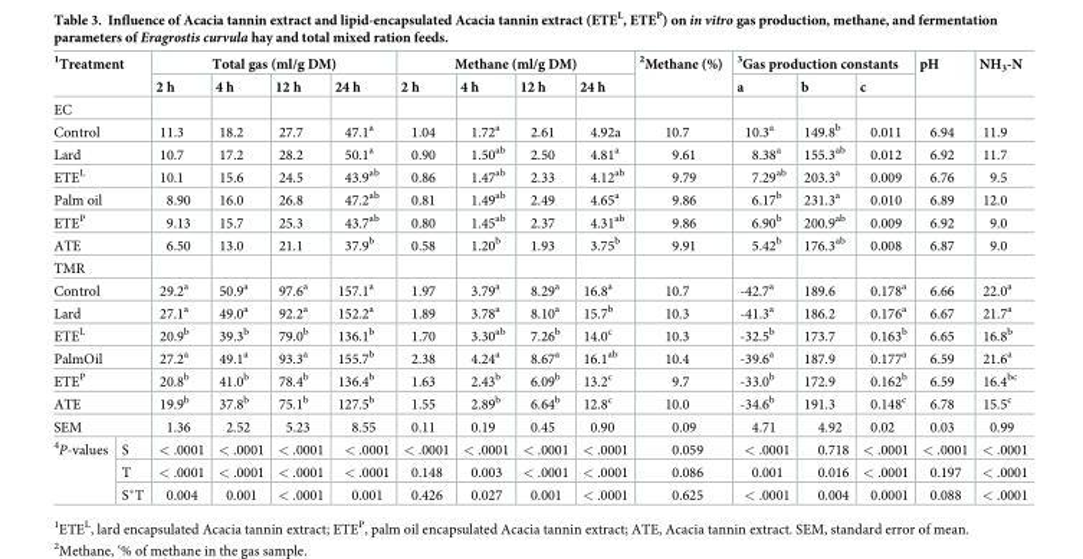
<table><thead><tr><td rowspan="2" colspan="2"><sup>1</sup>Treatment</td><td colspan="4">Total gas (ml/g DM)</td><td colspan="4">Methane (ml/g DM)</td><td rowspan="2"><sup>2</sup>Methane (%)</td><td colspan="3"><sup>3</sup>Gas production constants</td><td rowspan="2">pH</td><td rowspan="2">NH<sub>3</sub>-N</td></tr><tr><td>2 h</td><td>4 h</td><td>12 h</td><td>24 h</td><td>2 h</td><td>4 h</td><td>12 h</td><td>24 h</td><td>a</td><td>b</td><td>c</td></tr></thead><tbody><tr><td colspan="16">EC</td></tr><tr><td colspan="2">Control</td><td>11.3</td><td>18.2</td><td>27.7</td><td>47.1<sup>a</sup></td><td>1.04</td><td>1.72<sup>a</sup></td><td>2.61</td><td>4.92a</td><td>10.7</td><td>10.3<sup>a</sup></td><td>149.8<sup>b</sup></td><td>0.011</td><td>6.94</td><td>11.9</td></tr><tr><td colspan="2">Lard</td><td>10.7</td><td>17.2</td><td>28.2</td><td>50.1<sup>a</sup></td><td>0.90</td><td>1.50<sup>ab</sup></td><td>2.50</td><td>4.81<sup>a</sup></td><td>9.61</td><td>8.38<sup>a</sup></td><td>155.3<sup>ab</sup></td><td>0.012</td><td>6.92</td><td>11.7</td></tr><tr><td colspan="2">ETE<sup>L</sup></td><td>10.1</td><td>15.6</td><td>24.5</td><td>43.9<sup>ab</sup></td><td>0.86</td><td>1.47<sup>ab</sup></td><td>2.33</td><td>4.12<sup>ab</sup></td><td>9.79</td><td>7.29<sup>ab</sup></td><td>203.3<sup>a</sup></td><td>0.009</td><td>6.76</td><td>9.5</td></tr><tr><td colspan="2">Palm oil</td><td>8.90</td><td>16.0</td><td>26.8</td><td>47.2<sup>ab</sup></td><td>0.81</td><td>1.49<sup>ab</sup></td><td>2.49</td><td>4.65<sup>a</sup></td><td>9.86</td><td>6.17<sup>b</sup></td><td>231.3<sup>a</sup></td><td>0.010</td><td>6.89</td><td>12.0</td></tr><tr><td colspan="2">ETE<sup>P</sup></td><td>9.13</td><td>15.7</td><td>25.3</td><td>43.7<sup>ab</sup></td><td>0.80</td><td>1.45<sup>ab</sup></td><td>2.37</td><td>4.31<sup>ab</sup></td><td>9.86</td><td>6.90<sup>b</sup></td><td>200.9<sup>ab</sup></td><td>0.009</td><td>6.92</td><td>9.0</td></tr><tr><td colspan="2">ATE</td><td>6.50</td><td>13.0</td><td>21.1</td><td>37.9<sup>b</sup></td><td>0.58</td><td>1.20<sup>b</sup></td><td>1.93</td><td>3.75<sup>b</sup></td><td>9.91</td><td>5.42<sup>b</sup></td><td>176.3<sup>ab</sup></td><td>0.008</td><td>6.87</td><td>9.0</td></tr><tr><td colspan="16">TMR</td></tr><tr><td colspan="2">Control</td><td>29.2<sup>a</sup></td><td>50.9<sup>a</sup></td><td>97.6<sup>a</sup></td><td>157.1<sup>a</sup></td><td>1.97</td><td>3.79<sup>a</sup></td><td>8.29<sup>a</sup></td><td>16.8<sup>a</sup></td><td>10.7</td><td>-42.7<sup>a</sup></td><td>189.6</td><td>0.178<sup>a</sup></td><td>6.66</td><td>22.0<sup>a</sup></td></tr><tr><td colspan="2">Lard</td><td>27.1<sup>a</sup></td><td>49.0<sup>a</sup></td><td>92.2<sup>a</sup></td><td>152.2<sup>a</sup></td><td>1.89</td><td>3.78<sup>a</sup></td><td>8.10<sup>a</sup></td><td>15.7<sup>b</sup></td><td>10.3</td><td>-41.3<sup>a</sup></td><td>186.2</td><td>0.176<sup>a</sup></td><td>6.67</td><td>21.7<sup>a</sup></td></tr><tr><td colspan="2">ETE<sup>L</sup></td><td>20.9<sup>b</sup></td><td>39.3<sup>b</sup></td><td>79.0<sup>b</sup></td><td>136.1<sup>b</sup></td><td>1.70</td><td>3.30<sup>ab</sup></td><td>7.26<sup>b</sup></td><td>14.0<sup>c</sup></td><td>10.3</td><td>-32.5<sup>b</sup></td><td>173.7</td><td>0.163<sup>b</sup></td><td>6.65</td><td>16.8<sup>b</sup></td></tr><tr><td colspan="2">PalmOil</td><td>27.2<sup>a</sup></td><td>49.1<sup>a</sup></td><td>93.3<sup>a</sup></td><td>155.7<sup>b</sup></td><td>2.38</td><td>4.24<sup>a</sup></td><td>8.67<sup>a</sup></td><td>16.1<sup>ab</sup></td><td>10.4</td><td>-39.6<sup>a</sup></td><td>187.9</td><td>0.177<sup>a</sup></td><td>6.59</td><td>21.6<sup>a</sup></td></tr><tr><td colspan="2">ETE<sup>P</sup></td><td>20.8<sup>b</sup></td><td>41.0<sup>b</sup></td><td>78.4<sup>b</sup></td><td>136.4<sup>b</sup></td><td>1.63</td><td>2.43<sup>b</sup></td><td>6.09<sup>b</sup></td><td>13.2<sup>c</sup></td><td>9.7</td><td>-33.0<sup>b</sup></td><td>172.9</td><td>0.162<sup>b</sup></td><td>6.59</td><td>16.4<sup>bc</sup></td></tr><tr><td colspan="2">ATE</td><td>19.9<sup>b</sup></td><td>37.8<sup>b</sup></td><td>75.1<sup>b</sup></td><td>127.5<sup>b</sup></td><td>1.55</td><td>2.89<sup>b</sup></td><td>6.64<sup>b</sup></td><td>12.8<sup>c</sup></td><td>10.0</td><td>-34.6<sup>b</sup></td><td>191.3</td><td>0.148<sup>c</sup></td><td>6.78</td><td>15.5<sup>c</sup></td></tr><tr><td colspan="2">SEM</td><td>1.36</td><td>2.52</td><td>5.23</td><td>8.55</td><td>0.11</td><td>0.19</td><td>0.45</td><td>0.90</td><td>0.09</td><td>4.71</td><td>4.92</td><td>0.02</td><td>0.03</td><td>0.99</td></tr><tr><td rowspan="3"><sup>4</sup>P-values</td><td>S</td><td>&lt; .0001</td><td>&lt; .0001</td><td>&lt; .0001</td><td>&lt; .0001</td><td>&lt; .0001</td><td>&lt; .0001</td><td>&lt; .0001</td><td>&lt; .0001</td><td>0.059</td><td>&lt; .0001</td><td>0.718</td><td>&lt; .0001</td><td>&lt; .0001</td><td>&lt; .0001</td></tr><tr><td>T</td><td>&lt; .0001</td><td>&lt; .0001</td><td>&lt; .0001</td><td>&lt; .0001</td><td>0.148</td><td>0.003</td><td>&lt; .0001</td><td>&lt; .0001</td><td>0.086</td><td>0.001</td><td>0.016</td><td>&lt; .0001</td><td>0.197</td><td>&lt; .0001</td></tr><tr><td>S*T</td><td>0.004</td><td>0.001</td><td>&lt; .0001</td><td>0.001</td><td>0.426</td><td>0.027</td><td>0.001</td><td>&lt; .0001</td><td>0.625</td><td>&lt; .0001</td><td>0.004</td><td>0.0001</td><td>0.088</td><td>&lt; .0001</td></tr></tbody></table>